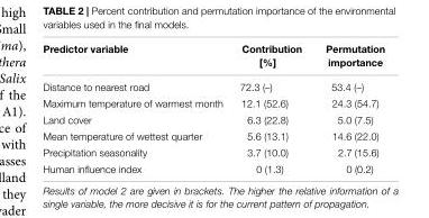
<table><thead><tr><td>Predictor variable</td><td>Contribution [%]</td><td>Permutation importance</td></tr></thead><tbody><tr><td>Distance to nearest road</td><td>72.3 (–)</td><td>53.4 (–)</td></tr><tr><td>Maximum temperature of warmest month</td><td>12.1 (52.6)</td><td>24.3 (54.7)</td></tr><tr><td>Land cover</td><td>6.3 (22.8)</td><td>5.0 (7.5)</td></tr><tr><td>Mean temperature of wettest quarter</td><td>5.6 (13.1)</td><td>14.6 (22.0)</td></tr><tr><td>Precipitation seasonality</td><td>3.7 (10.0)</td><td>2.7 (15.6)</td></tr><tr><td>Human influence index</td><td>0 (1.3)</td><td>0 (0.2)</td></tr></tbody></table>